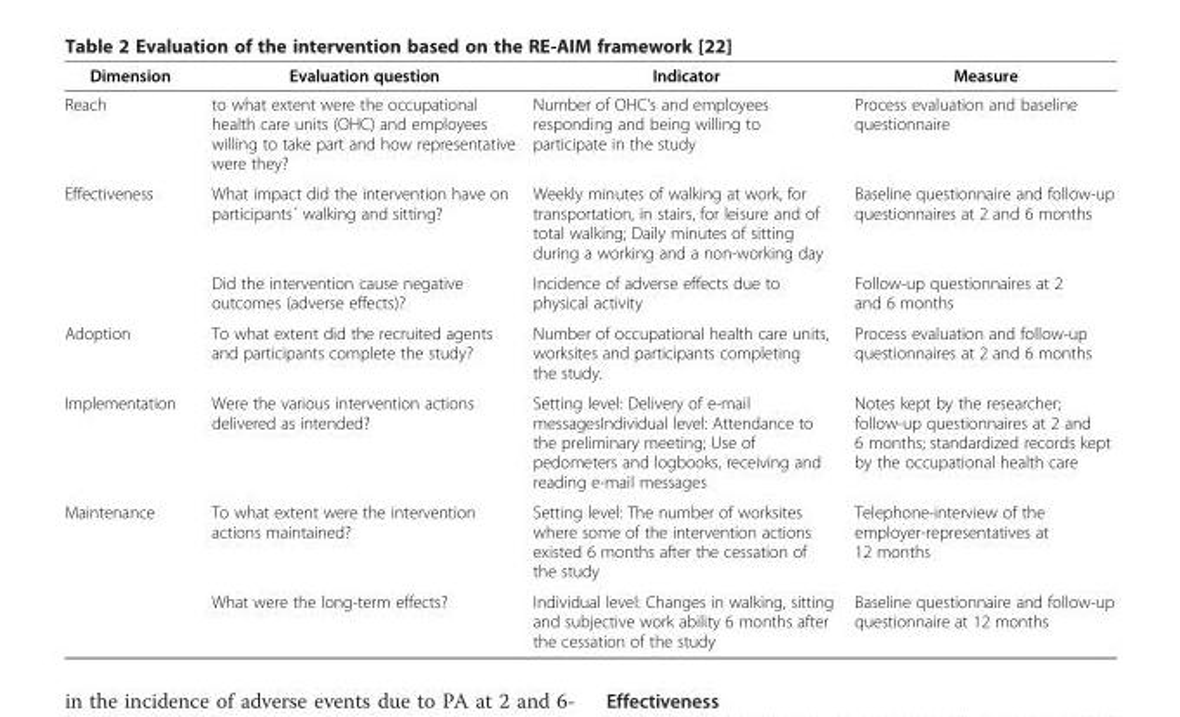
<table><thead><tr><td>Dimension</td><td>Evaluation question</td><td>Indicator</td><td>Measure</td></tr></thead><tbody><tr><td>Reach</td><td>to what extent were the occupational health care units (OHC) and employees willing to take part and how representative were they?</td><td>Number of OHC’s and employees responding and being willing to participate in the study</td><td>Process evaluation and baseline questionnaire</td></tr><tr><td rowspan="2">Effectiveness</td><td>What impact did the intervention have on participants´ walking and sitting?</td><td>Weekly minutes of walking at work, for transportation, in stairs, for leisure and of total walking; Daily minutes of sitting during a working and a non-working day</td><td>Baseline questionnaire and follow-up questionnaires at 2 and 6 months</td></tr><tr><td>Did the intervention cause negative outcomes (adverse effects)?</td><td>Incidence of adverse effects due to physical activity</td><td>Follow-up questionnaires at 2 and 6 months</td></tr><tr><td>Adoption</td><td>To what extent did the recruited agents and participants complete the study?</td><td>Number of occupational health care units, worksites and participants completing the study.</td><td>Process evaluation and follow-up questionnaires at 2 and 6 months</td></tr><tr><td>Implementation</td><td>Were the various intervention actions delivered as intended?</td><td>Setting level: Delivery of e-mail messagesIndividual level: Attendance to the preliminary meeting; Use of pedometers and logbooks, receiving and reading e-mail messages</td><td>Notes kept by the researcher; follow-up questionnaires at 2 and 6 months; standardized records kept by the occupational health care</td></tr><tr><td rowspan="2">Maintenance</td><td>To what extent were the intervention actions maintained?</td><td>Setting level: The number of worksites where some of the intervention actions existed 6 months after the cessation of the study</td><td>Telephone-interview of the employer-representatives at 12 months</td></tr><tr><td>What were the long-term effects?</td><td>Individual level: Changes in walking, sitting and subjective work ability 6 months after the cessation of the study</td><td>Baseline questionnaire and follow-up questionnaire at 12 months</td></tr></tbody></table>